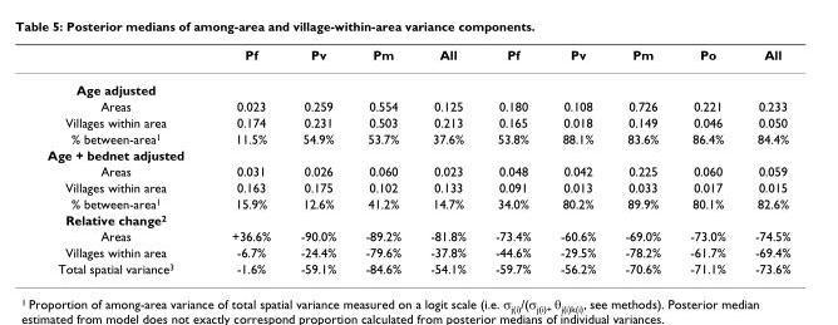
<table><thead><tr><td></td><td>Pf</td><td>Pv</td><td>Pm</td><td>All</td><td>Pf</td><td>Pv</td><td>Pm</td><td>Po</td><td>All</td></tr></thead><tbody><tr><td colspan="10">Age adjusted</td></tr><tr><td>Areas</td><td>0.023</td><td>0.259</td><td>0.554</td><td>0.125</td><td>0.180</td><td>0.108</td><td>0.726</td><td>0.221</td><td>0.233</td></tr><tr><td>Villages within area</td><td>0.174</td><td>0.231</td><td>0.503</td><td>0.213</td><td>0.165</td><td>0.018</td><td>0.149</td><td>0.046</td><td>0.050</td></tr><tr><td>% between-area<sup>1</sup></td><td>11.5%</td><td>54.9%</td><td>53.7%</td><td>37.6%</td><td>53.8%</td><td>88.1%</td><td>83.6%</td><td>86.4%</td><td>84.4%</td></tr><tr><td colspan="10">Age + bednet adjusted</td></tr><tr><td>Areas</td><td>0.031</td><td>0.026</td><td>0.060</td><td>0.023</td><td>0.048</td><td>0.042</td><td>0.225</td><td>0.060</td><td>0.059</td></tr><tr><td>Villages within area</td><td>0.163</td><td>0.175</td><td>0.102</td><td>0.133</td><td>0.091</td><td>0.013</td><td>0.033</td><td>0.017</td><td>0.015</td></tr><tr><td>% between-area<sup>1</sup></td><td>15.9%</td><td>12.6%</td><td>41.2%</td><td>14.7%</td><td>34.0%</td><td>80.2%</td><td>89.9%</td><td>80.1%</td><td>82.6%</td></tr><tr><td colspan="10">Relative change<sup>2</sup></td></tr><tr><td>Areas</td><td>+36.6%</td><td>-90.0%</td><td>-89.2%</td><td>-81.8%</td><td>-73.4%</td><td>-60.6%</td><td>-69.0%</td><td>-73.0%</td><td>-74.5%</td></tr><tr><td>Villages within area</td><td>-6.7%</td><td>-24.4%</td><td>-79.6%</td><td>-37.8%</td><td>-44.6%</td><td>-29.5%</td><td>-78.2%</td><td>-61.7%</td><td>-69.4%</td></tr><tr><td>Total spatial variance<sup>3</sup></td><td>-1.6%</td><td>-59.1%</td><td>-84.6%</td><td>-54.1%</td><td>-59.7%</td><td>-56.2%</td><td>-70.6%</td><td>-71.1%</td><td>-73.6%</td></tr></tbody></table>